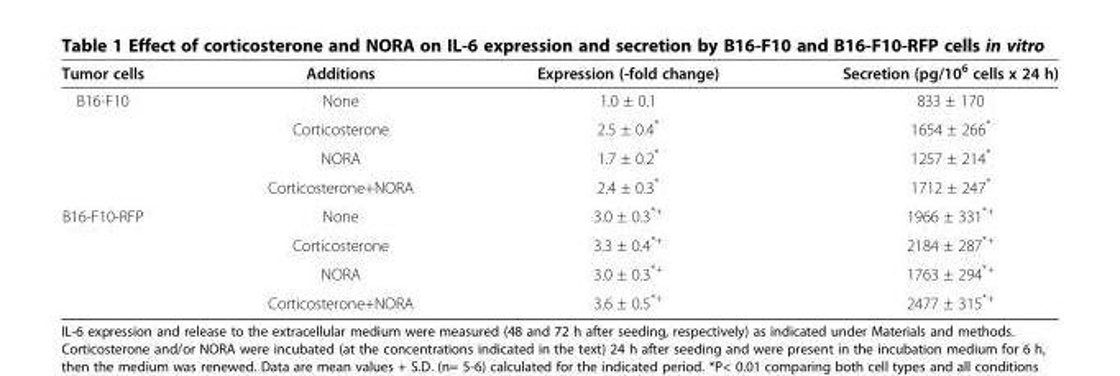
<table><thead><tr><td>Tumor cells</td><td>Additions</td><td>Expression (-fold change)</td><td>Secretion (pg/10<sup>6</sup> cells x 24 h)</td></tr></thead><tbody><tr><td rowspan="4">B16-F10</td><td>None</td><td>1.0 ± 0.1</td><td>833 ± 170</td></tr><tr><td>Corticosterone</td><td>2.5 ± 0.4*</td><td>1654 ± 266*</td></tr><tr><td>NORA</td><td>1.7 ± 0.2*</td><td>1257 ± 214*</td></tr><tr><td>Corticosterone+NORA</td><td>2.4 ± 0.3*</td><td>1712 ± 247*</td></tr><tr><td rowspan="4">B16-F10-RFP</td><td>None</td><td>3.0 ± 0.3<sup>*+</sup></td><td>1966 ± 331<sup>*+</sup></td></tr><tr><td>Corticosterone</td><td>3.3 ± 0.4<sup>*+</sup></td><td>2184 ± 287<sup>*+</sup></td></tr><tr><td>NORA</td><td>3.0 ± 0.3<sup>*+</sup></td><td>1763 ± 294<sup>*+</sup></td></tr><tr><td>Corticosterone+NORA</td><td>3.6 ± 0.5<sup>*+</sup></td><td>2477 ± 315<sup>*+</sup></td></tr></tbody></table>